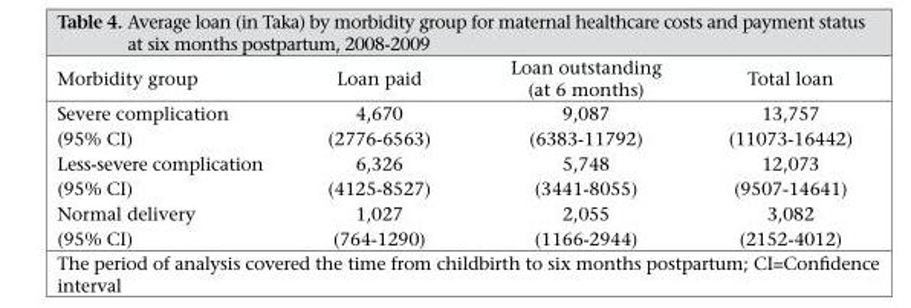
<table><thead><tr><td>Morbidity group</td><td>Loan paid</td><td>Loan outstanding (at 6 months)</td><td>Total loan</td></tr></thead><tbody><tr><td>Severe complication</td><td>4,670</td><td>9,087</td><td>13,757</td></tr><tr><td>(95% CI)</td><td>(2776-6563)</td><td>(6383-11792)</td><td>(11073-16442)</td></tr><tr><td>Less-severe complication</td><td>6,326</td><td>5,748</td><td>12,073</td></tr><tr><td>(95% CI)</td><td>(4125-8527)</td><td>(3441-8055)</td><td>(9507-14641)</td></tr><tr><td>Normal delivery</td><td>1,027</td><td>2,055</td><td>3,082</td></tr><tr><td>(95% CI)</td><td>(764-1290)</td><td>(1166-2944)</td><td>(2152-4012)</td></tr></tbody></table>